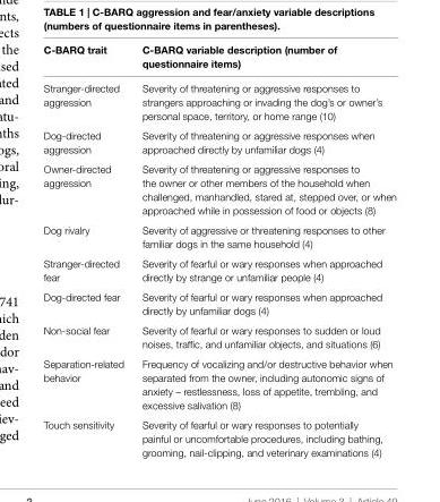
<table><thead><tr><td>c-BarQ trait</td><td>c-BarQ variable description (number of questionnaire items)</td></tr></thead><tbody><tr><td>Stranger-directed aggression</td><td>Severity of threatening or aggressive responses to strangers approaching or invading the dog’s or owner’s personal space, territory, or home range (10)</td></tr><tr><td>Dog-directed aggression</td><td>Severity of threatening or aggressive responses when approached directly by unfamiliar dogs (4)</td></tr><tr><td>Owner-directed aggression</td><td>Severity of threatening or aggressive responses to the owner or other members of the household when challenged, manhandled, stared at, stepped over, or when approached while in possession of food or objects (8)</td></tr><tr><td>Dog rivalry</td><td>Severity of aggressive or threatening responses to other familiar dogs in the same household (4)</td></tr><tr><td>Stranger-directed fear</td><td>Severity of fearful or wary responses when approached directly by strange or unfamiliar people (4)</td></tr><tr><td>Dog-directed fear</td><td>Severity of fearful or wary responses when approached directly by unfamiliar dogs (4)</td></tr><tr><td>Non-social fear</td><td>Severity of fearful or wary responses to sudden or loud noises, traffic, and unfamiliar objects, and situations (6)</td></tr><tr><td>Separation-related behavior</td><td>Frequency of vocalizing and/or destructive behavior when separated from the owner, including autonomic signs of anxiety – restlessness, loss of appetite, trembling, and excessive salivation (8)</td></tr><tr><td>Touch sensitivity</td><td>Severity of fearful or wary responses to potentially painful or uncomfortable procedures, including bathing, grooming, nail-clipping, and veterinary examinations (4)</td></tr></tbody></table>